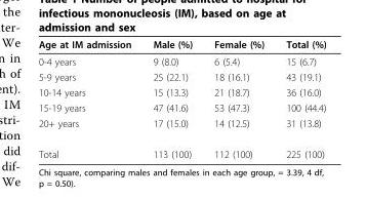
<table><thead><tr><td>Age at IM admission</td><td>Male (%)</td><td>Female (%)</td><td>Total (%)</td></tr></thead><tbody><tr><td>0-4 years</td><td>9 (8.0)</td><td>6 (5.4)</td><td>15 (6.7)</td></tr><tr><td>5-9 years</td><td>25 (22.1)</td><td>18 (16.1)</td><td>43 (19.1)</td></tr><tr><td>10-14 years</td><td>15 (13.3)</td><td>21 (18.7)</td><td>36 (16.0)</td></tr><tr><td>15-19 years</td><td>47 (41.6)</td><td>53 (47.3)</td><td>100 (44.4)</td></tr><tr><td>20+ years</td><td>17 (15.0)</td><td>14 (12.5)</td><td>31 (13.8)</td></tr><tr><td>Total</td><td>113 (100)</td><td>112 (100)</td><td>225 (100)</td></tr></tbody></table>